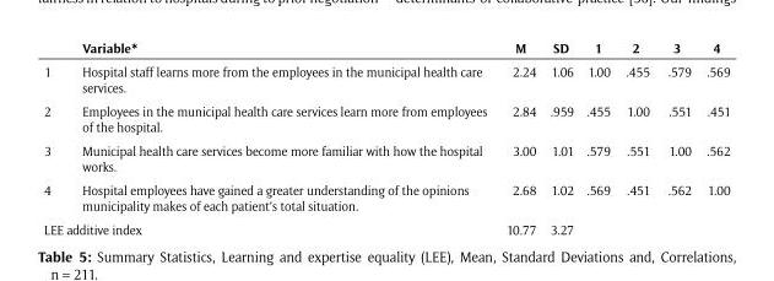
<table><thead><tr><td></td><td>Variable*</td><td>M</td><td>SD</td><td>1</td><td>2</td><td>3</td><td>4</td></tr></thead><tbody><tr><td>1</td><td>Hospital staff learns more from the employees in the municipal health care services.</td><td>2.24</td><td>1.06</td><td>1.00</td><td>.455</td><td>.579</td><td>.569</td></tr><tr><td>2</td><td>Employees in the municipal health care services learn more from employees of the hospital.</td><td>2.84</td><td>.959</td><td>.455</td><td>1.00</td><td>.551</td><td>.451</td></tr><tr><td>3</td><td>Municipal health care services become more familiar with how the hospital works.</td><td>3.00</td><td>1.01</td><td>.579</td><td>.551</td><td>1.00</td><td>.562</td></tr><tr><td>4</td><td>Hospital employees have gained a greater understanding of the opinions municipality makes of each patient’s total situation.</td><td>2.68</td><td>1.02</td><td>.569</td><td>.451</td><td>.562</td><td>1.00</td></tr><tr><td colspan="2">LEE additive index</td><td>10.77</td><td>3.27</td><td></td><td></td><td></td><td></td></tr></tbody></table>